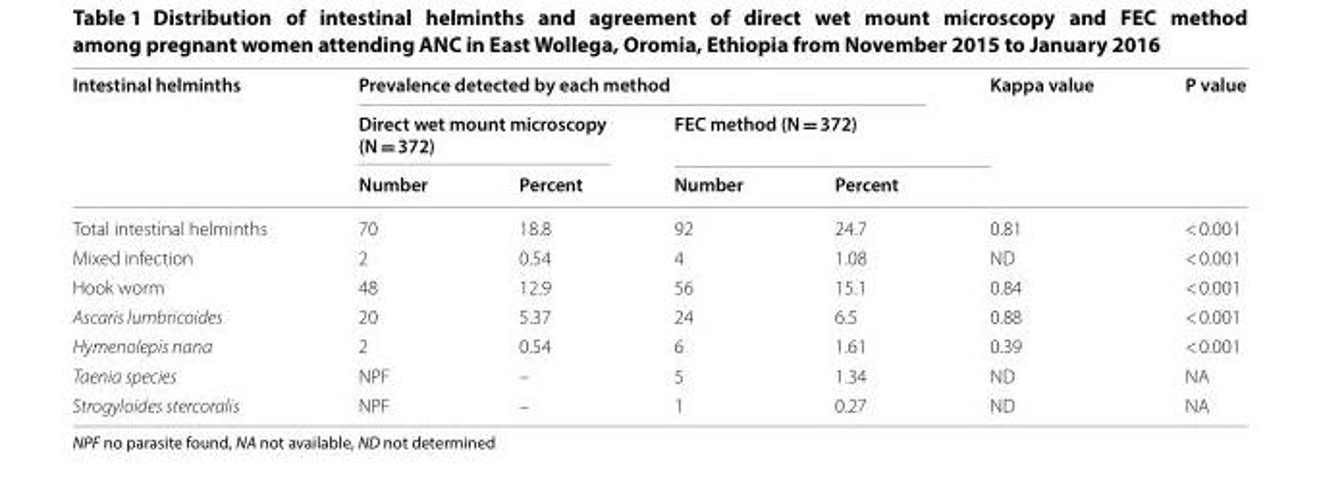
<table><thead><tr><td rowspan="3">Intestinal helminths</td><td colspan="4">Prevalence detected by each method</td><td rowspan="3">Kappa value</td><td rowspan="3">P value</td></tr><tr><td colspan="2">Direct wet mount microscopy (N = 372)</td><td colspan="2">FEC method (N = 372)</td></tr><tr><td>Number</td><td>Percent</td><td>Number</td><td>Percent</td></tr></thead><tbody><tr><td>Total intestinal helminths</td><td>70</td><td>18.8</td><td>92</td><td>24.7</td><td>0.81</td><td>&lt; 0.001</td></tr><tr><td>Mixed infection</td><td>2</td><td>0.54</td><td>4</td><td>1.08</td><td>ND</td><td>&lt; 0.001</td></tr><tr><td>Hook worm</td><td>48</td><td>12.9</td><td>56</td><td>15.1</td><td>0.84</td><td>&lt; 0.001</td></tr><tr><td>Ascaris lumbricoides</td><td>20</td><td>5.37</td><td>24</td><td>6.5</td><td>0.88</td><td>&lt; 0.001</td></tr><tr><td>Hymenolepis nana</td><td>2</td><td>0.54</td><td>6</td><td>1.61</td><td>0.39</td><td>&lt; 0.001</td></tr><tr><td>Taenia species</td><td>NPF</td><td>–</td><td>5</td><td>1.34</td><td>ND</td><td>NA</td></tr><tr><td>Strogyloides stercoralis</td><td>NPF</td><td>–</td><td>1</td><td>0.27</td><td>ND</td><td>NA</td></tr></tbody></table>